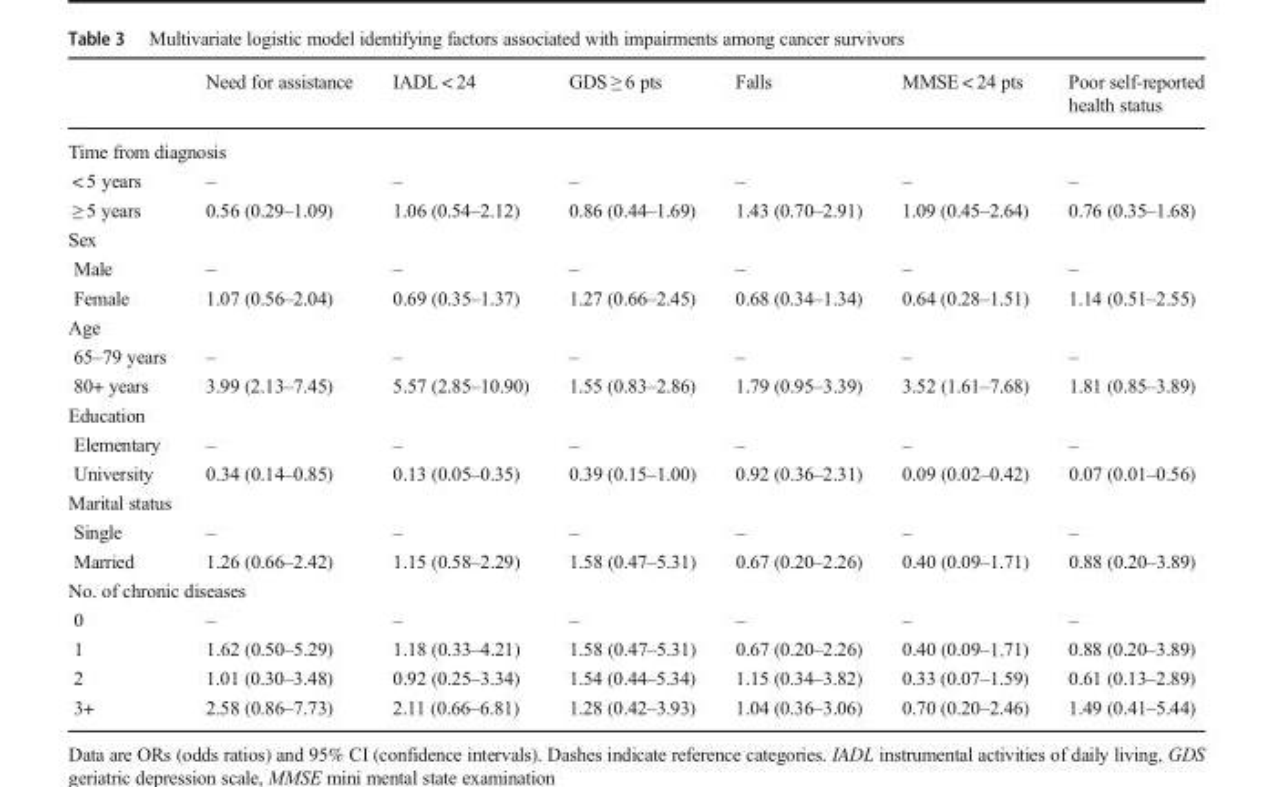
<table><thead><tr><td></td><td>Need for assistance</td><td>IADL &lt; 24</td><td>GDS ≥ 6 pts</td><td>Falls</td><td>MMSE &lt; 24 pts</td><td>Poor self-reported health status</td></tr></thead><tbody><tr><td colspan="7">Time from diagnosis</td></tr><tr><td>&lt; 5 years</td><td>–</td><td>–</td><td>–</td><td>–</td><td>–</td><td>–</td></tr><tr><td>≥ 5 years</td><td>0.56 (0.29–1.09)</td><td>1.06 (0.54–2.12)</td><td>0.86 (0.44–1.69)</td><td>1.43 (0.70–2.91)</td><td>1.09 (0.45–2.64)</td><td>0.76 (0.35–1.68)</td></tr><tr><td colspan="7">Sex</td></tr><tr><td>Male</td><td>–</td><td>–</td><td>–</td><td>–</td><td>–</td><td>–</td></tr><tr><td>Female</td><td>1.07 (0.56–2.04)</td><td>0.69 (0.35–1.37)</td><td>1.27 (0.66–2.45)</td><td>0.68 (0.34–1.34)</td><td>0.64 (0.28–1.51)</td><td>1.14 (0.51–2.55)</td></tr><tr><td colspan="7">Age</td></tr><tr><td>65–79 years</td><td>–</td><td>–</td><td>–</td><td>–</td><td>–</td><td>–</td></tr><tr><td>80+ years</td><td>3.99 (2.13–7.45)</td><td>5.57 (2.85–10.90)</td><td>1.55 (0.83–2.86)</td><td>1.79 (0.95–3.39)</td><td>3.52 (1.61–7.68)</td><td>1.81 (0.85–3.89)</td></tr><tr><td colspan="7">Education</td></tr><tr><td>Elementary</td><td>–</td><td>–</td><td>–</td><td>–</td><td>–</td><td>–</td></tr><tr><td>University</td><td>0.34 (0.14–0.85)</td><td>0.13 (0.05–0.35)</td><td>0.39 (0.15–1.00)</td><td>0.92 (0.36–2.31)</td><td>0.09 (0.02–0.42)</td><td>0.07 (0.01–0.56)</td></tr><tr><td colspan="7">Marital status</td></tr><tr><td>Single</td><td>–</td><td>–</td><td>–</td><td>–</td><td>–</td><td>–</td></tr><tr><td>Married</td><td>1.26 (0.66–2.42)</td><td>1.15 (0.58–2.29)</td><td>1.58 (0.47–5.31)</td><td>0.67 (0.20–2.26)</td><td>0.40 (0.09–1.71)</td><td>0.88 (0.20–3.89)</td></tr><tr><td colspan="7">No. of chronic diseases</td></tr><tr><td>0</td><td>–</td><td>–</td><td>–</td><td>–</td><td>–</td><td>–</td></tr><tr><td>1</td><td>1.62 (0.50–5.29)</td><td>1.18 (0.33–4.21)</td><td>1.58 (0.47–5.31)</td><td>0.67 (0.20–2.26)</td><td>0.40 (0.09–1.71)</td><td>0.88 (0.20–3.89)</td></tr><tr><td>2</td><td>1.01 (0.30–3.48)</td><td>0.92 (0.25–3.34)</td><td>1.54 (0.44–5.34)</td><td>1.15 (0.34–3.82)</td><td>0.33 (0.07–1.59)</td><td>0.61 (0.13–2.89)</td></tr><tr><td>3+</td><td>2.58 (0.86–7.73)</td><td>2.11 (0.66–6.81)</td><td>1.28 (0.42–3.93)</td><td>1.04 (0.36–3.06)</td><td>0.70 (0.20–2.46)</td><td>1.49 (0.41–5.44)</td></tr></tbody></table>